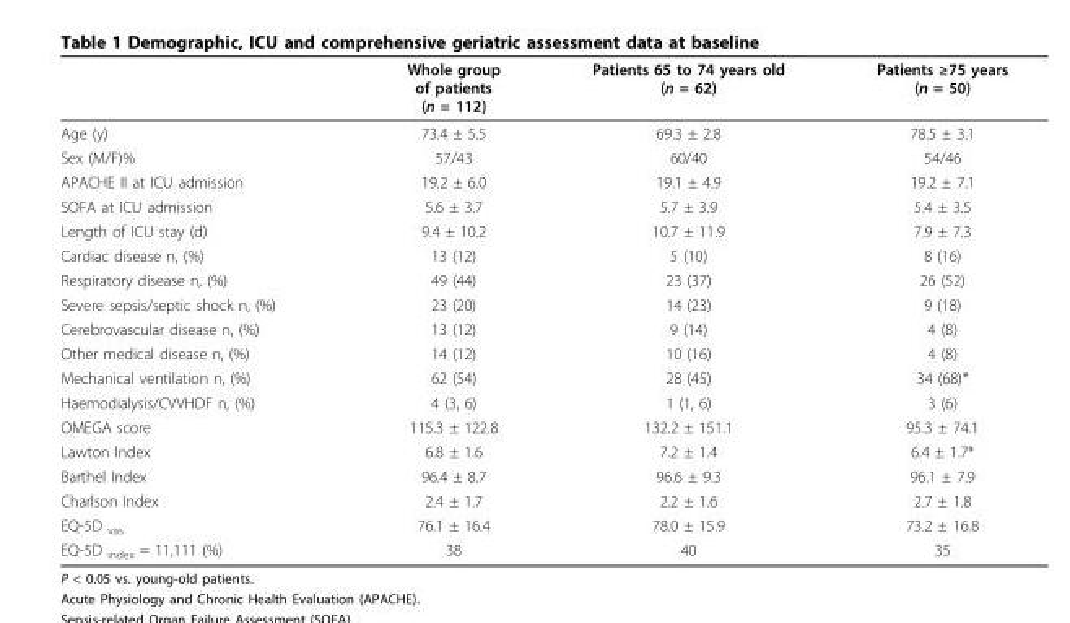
<table><thead><tr><td></td><td>Whole group of patients (n = 112)</td><td>Patients 65 to 74 years old (n = 62)</td><td>Patients ≥75 years (n = 50)</td></tr></thead><tbody><tr><td>Age (y)</td><td>73.4 ± 5.5</td><td>69.3 ± 2.8</td><td>78.5 ± 3.1</td></tr><tr><td>Sex (M/F)%</td><td>57/43</td><td>60/40</td><td>54/46</td></tr><tr><td>APACHE II at ICU admission</td><td>19.2 ± 6.0</td><td>19.1 ± 4.9</td><td>19.2 ± 7.1</td></tr><tr><td>SOFA at ICU admission</td><td>5.6 ± 3.7</td><td>5.7 ± 3.9</td><td>5.4 ± 3.5</td></tr><tr><td>Length of ICU stay (d)</td><td>9.4 ± 10.2</td><td>10.7 ± 11.9</td><td>7.9 ± 7.3</td></tr><tr><td>Cardiac disease n, (%)</td><td>13 (12)</td><td>5 (10)</td><td>8 (16)</td></tr><tr><td>Respiratory disease n, (%)</td><td>49 (44)</td><td>23 (37)</td><td>26 (52)</td></tr><tr><td>Severe sepsis/septic shock n, (%)</td><td>23 (20)</td><td>14 (23)</td><td>9 (18)</td></tr><tr><td>Cerebrovascular disease n, (%)</td><td>13 (12)</td><td>9 (14)</td><td>4 (8)</td></tr><tr><td>Other medical disease n, (%)</td><td>14 (12)</td><td>10 (16)</td><td>4 (8)</td></tr><tr><td>Mechanical ventilation n, (%)</td><td>62 (54)</td><td>28 (45)</td><td>34 (68)*</td></tr><tr><td>Haemodialysis/CVVHDF n, (%)</td><td>4 (3, 6)</td><td>1 (1, 6)</td><td>3 (6)</td></tr><tr><td>OMEGA score</td><td>115.3 ± 122.8</td><td>132.2 ± 151.1</td><td>95.3 ± 74.1</td></tr><tr><td>Lawton Index</td><td>6.8 ± 1.6</td><td>7.2 ± 1.4</td><td>6.4 ± 1.7*</td></tr><tr><td>Barthel Index</td><td>96.4 ± 8.7</td><td>96.6 ± 9.3</td><td>96.1 ± 7.9</td></tr><tr><td>Charlson Index</td><td>2.4 ± 1.7</td><td>2.2 ± 1.6</td><td>2.7 ± 1.8</td></tr><tr><td>EQ-5D <sub>vas</sub></td><td>76.1 ± 16.4</td><td>78.0 ± 15.9</td><td>73.2 ± 16.8</td></tr><tr><td>EQ-5D <sub>index</sub> = 11,111 (%)</td><td>38</td><td>40</td><td>35</td></tr></tbody></table>